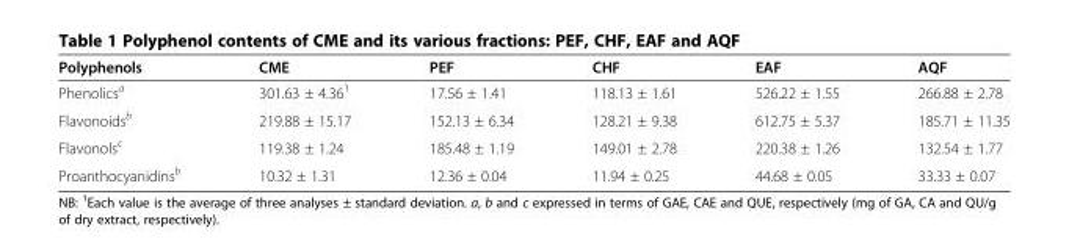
<table><thead><tr><td>Polyphenols</td><td>CME</td><td>PEF</td><td>CHF</td><td>EAF</td><td>AQF</td></tr></thead><tbody><tr><td>Phenolics<sup>a</sup></td><td>301.63 ± 4.36<sup>1</sup></td><td>17.56 ± 1.41</td><td>118.13 ± 1.61</td><td>526.22 ± 1.55</td><td>266.88 ± 2.78</td></tr><tr><td>Flavonoids<sup>b</sup></td><td>219.88 ± 15.17</td><td>152.13 ± 6.34</td><td>128.21 ± 9.38</td><td>612.75 ± 5.37</td><td>185.71 ± 11.35</td></tr><tr><td>Flavonols<sup>c</sup></td><td>119.38 ± 1.24</td><td>185.48 ± 1.19</td><td>149.01 ± 2.78</td><td>220.38 ± 1.26</td><td>132.54 ± 1.77</td></tr><tr><td>Proanthocyanidins<sup>b</sup></td><td>10.32 ± 1.31</td><td>12.36 ± 0.04</td><td>11.94 ± 0.25</td><td>44.68 ± 0.05</td><td>33.33 ± 0.07</td></tr></tbody></table>